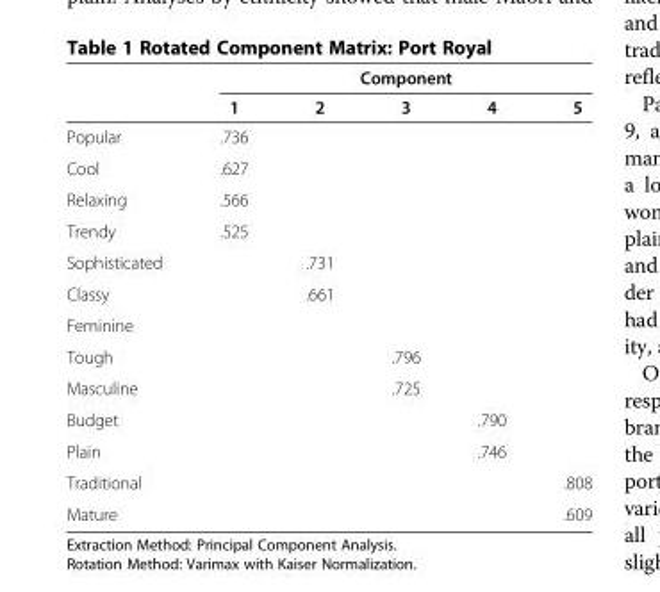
<table><thead><tr><td rowspan="2"></td><td colspan="5">Component</td></tr><tr><td>1</td><td>2</td><td>3</td><td>4</td><td>5</td></tr></thead><tbody><tr><td>Popular</td><td>.736</td><td></td><td></td><td></td><td></td></tr><tr><td>Cool</td><td>.627</td><td></td><td></td><td></td><td></td></tr><tr><td>Relaxing</td><td>.566</td><td></td><td></td><td></td><td></td></tr><tr><td>Trendy</td><td>.525</td><td></td><td></td><td></td><td></td></tr><tr><td>Sophisticated</td><td></td><td>.731</td><td></td><td></td><td></td></tr><tr><td>Classy</td><td></td><td>.661</td><td></td><td></td><td></td></tr><tr><td colspan="6">Feminine</td></tr><tr><td>Tough</td><td></td><td></td><td>.796</td><td></td><td></td></tr><tr><td>Masculine</td><td></td><td></td><td>.725</td><td></td><td></td></tr><tr><td>Budget</td><td></td><td></td><td></td><td>.790</td><td></td></tr><tr><td>Plain</td><td></td><td></td><td></td><td>.746</td><td></td></tr><tr><td>Traditional</td><td></td><td></td><td></td><td></td><td>.808</td></tr><tr><td>Mature</td><td></td><td></td><td></td><td></td><td>.609</td></tr></tbody></table>